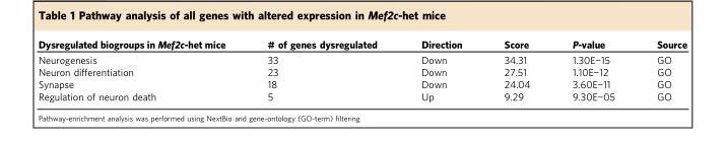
<table><thead><tr><td>Dysregulated biogroups in Mef2c-het mice</td><td># of genes dysregulated</td><td>Direction</td><td>Score</td><td>P-value</td><td>Source</td></tr></thead><tbody><tr><td>Neurogenesis</td><td>33</td><td>Down</td><td>34.31</td><td>1.30E−15</td><td>GO</td></tr><tr><td>Neuron differentiation</td><td>23</td><td>Down</td><td>27.51</td><td>1.10E−12</td><td>GO</td></tr><tr><td>Synapse</td><td>18</td><td>Down</td><td>24.04</td><td>3.60E−11</td><td>GO</td></tr><tr><td>Regulation of neuron death</td><td>5</td><td>Up</td><td>9.29</td><td>9.30E−05</td><td>GO</td></tr></tbody></table>